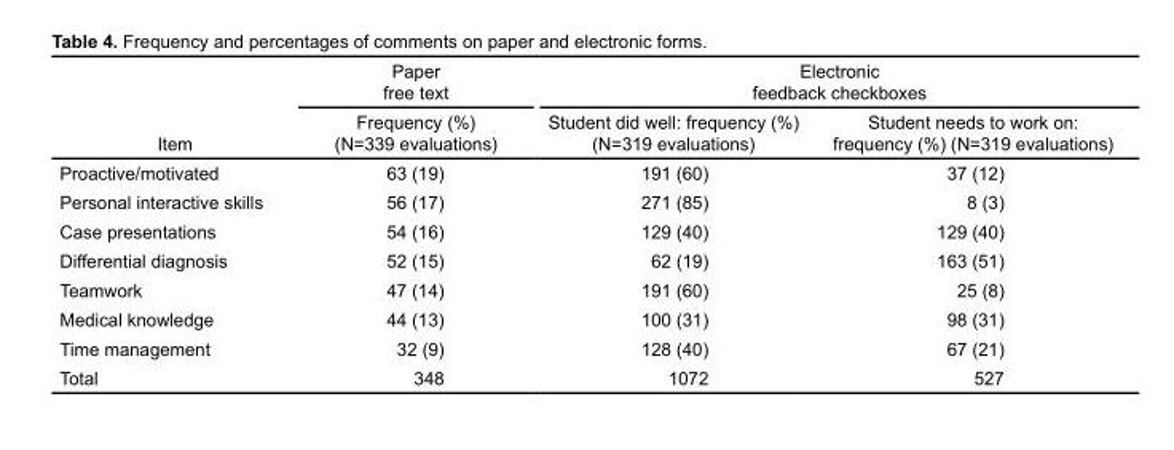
<table><thead><tr><td rowspan="2">Item</td><td rowspan="2">Paper free text Frequency (%) (N=339 evaluations)</td><td colspan="2">Electronic feedback checkboxes</td></tr><tr><td>Student did well: frequency (%) (N=319 evaluations)</td><td>Student needs to work on: frequency (%) (N=319 evaluations)</td></tr></thead><tbody><tr><td>Proactive/motivated</td><td>63 (19)</td><td>191 (60)</td><td>37 (12)</td></tr><tr><td>Personal interactive skills</td><td>56 (17)</td><td>271 (85)</td><td>8 (3)</td></tr><tr><td>Case presentations</td><td>54 (16)</td><td>129 (40)</td><td>129 (40)</td></tr><tr><td>Differential diagnosis</td><td>52 (15)</td><td>62 (19)</td><td>163 (51)</td></tr><tr><td>Teamwork</td><td>47 (14)</td><td>191 (60)</td><td>25 (8)</td></tr><tr><td>Medical knowledge</td><td>44 (13)</td><td>100 (31)</td><td>98 (31)</td></tr><tr><td>Time management</td><td>32 (9)</td><td>128 (40)</td><td>67 (21)</td></tr><tr><td>Total</td><td>348</td><td>1072</td><td>527</td></tr></tbody></table>